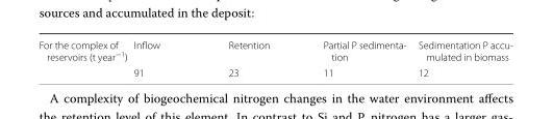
<table><tbody><tr><td rowspan="2">For the complex of reservoirs (t year<sup>−1</sup>)</td><td>Inflow</td><td>Retention</td><td>Partial P sedimenta‑ tion</td><td>Sedimentation P accu‑ mulated in biomass</td></tr><tr><td>91</td><td>23</td><td>11</td><td>12</td></tr></tbody></table>